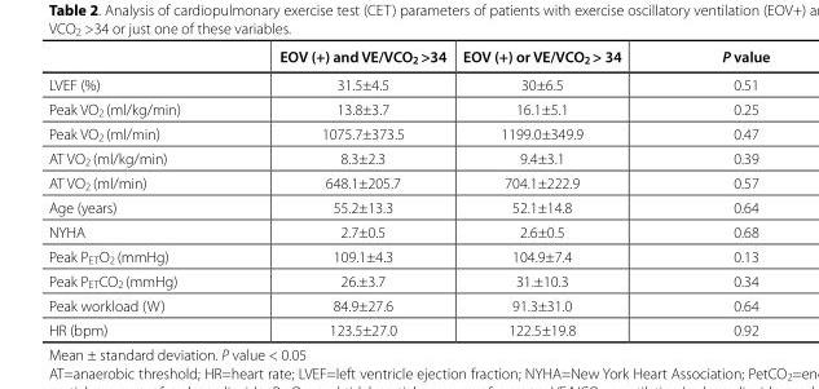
<table><thead><tr><td></td><td>EOV (+) and VE/VCO<sub>2</sub> &gt;34</td><td>EOV (+) or VE/VCO<sub>2</sub> &gt; 34</td><td>P value</td></tr></thead><tbody><tr><td>LVEF (%)</td><td>31.5±4.5</td><td>30±6.5</td><td>0.51</td></tr><tr><td>Peak VO<sub>2</sub> (ml/kg/min)</td><td>13.8±3.7</td><td>16.1±5.1</td><td>0.25</td></tr><tr><td>Peak VO<sub>2</sub> (ml/min)</td><td>1075.7±373.5</td><td>1199.0±349.9</td><td>0.47</td></tr><tr><td>AT VO<sub>2</sub> (ml/kg/min)</td><td>8.3±2.3</td><td>9.4±3.1</td><td>0.39</td></tr><tr><td>AT VO<sub>2</sub> (ml/min)</td><td>648.1±205.7</td><td>704.1±222.9</td><td>0.57</td></tr><tr><td>Age (years)</td><td>55.2±13.3</td><td>52.1±14.8</td><td>0.64</td></tr><tr><td>NYHA</td><td>2.7±0.5</td><td>2.6±0.5</td><td>0.68</td></tr><tr><td>Peak P<sub>ET</sub>O<sub>2</sub> (mmHg)</td><td>109.1±4.3</td><td>104.9±7.4</td><td>0.13</td></tr><tr><td>Peak P<sub>ET</sub>CO<sub>2</sub> (mmHg)</td><td>26.±3.7</td><td>31.±10.3</td><td>0.34</td></tr><tr><td>Peak workload (W)</td><td>84.9±27.6</td><td>91.3±31.0</td><td>0.64</td></tr><tr><td>HR (bpm)</td><td>123.5±27.0</td><td>122.5±19.8</td><td>0.92</td></tr></tbody></table>